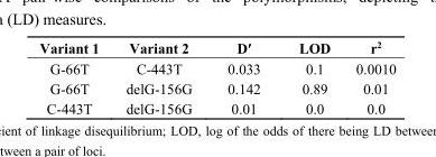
<table><thead><tr><td>Variant 1</td><td>Variant 2</td><td>D′</td><td>LOD</td><td>r<sup>2</sup></td></tr></thead><tbody><tr><td>G-66T</td><td>C-443T</td><td>0.033</td><td>0.1</td><td>0.0010</td></tr><tr><td>G-66T</td><td>delG-156G</td><td>0.142</td><td>0.89</td><td>0.01</td></tr><tr><td>C-443T</td><td>delG-156G</td><td>0.01</td><td>0.0</td><td>0.0</td></tr></tbody></table>